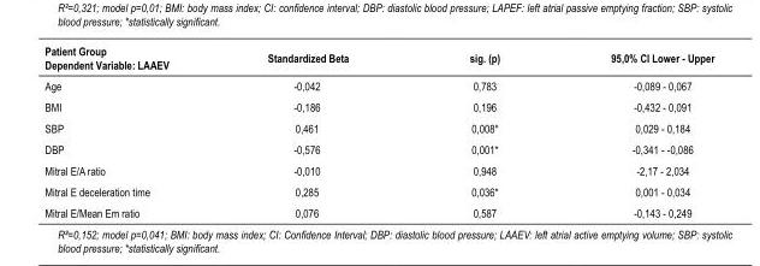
<table><thead><tr><td>Patient Group Dependent Variable: LAAEV</td><td>Standardized Beta</td><td>sig. (p)</td><td>95,0% CI Lower - Upper</td></tr></thead><tbody><tr><td>Age</td><td>-0,042</td><td>0,783</td><td>-0,089 - 0,067</td></tr><tr><td>BMI</td><td>-0,186</td><td>0,196</td><td>-0,432 - 0,091</td></tr><tr><td>SBP</td><td>0,461</td><td>0,008*</td><td>0,029 - 0,184</td></tr><tr><td>DBP</td><td>-0,576</td><td>0,001*</td><td>-0,341 - -0,086</td></tr><tr><td>Mitral E/A ratio</td><td>-0,010</td><td>0,948</td><td>-2,17 - 2,034</td></tr><tr><td>Mitral E deceleration time</td><td>0,285</td><td>0,036*</td><td>0,001 - 0,034</td></tr><tr><td>Mitral E/Mean Em ratio</td><td>0,076</td><td>0,587</td><td>-0,143 - 0,249</td></tr></tbody></table>